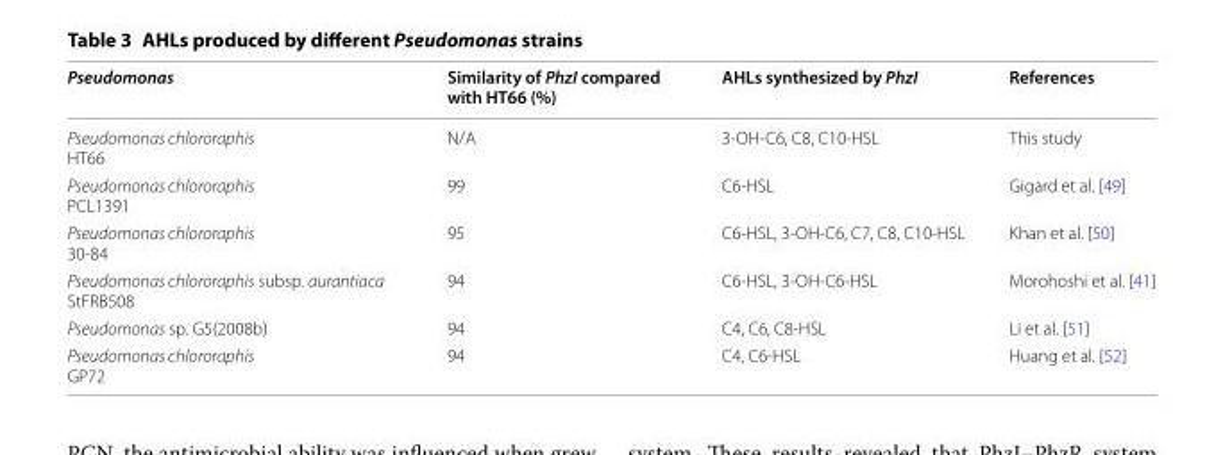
<table><thead><tr><td>Pseudomonas</td><td>Similarity of PhzI compared with HT66 (%)</td><td>AHLs synthesized by PhzI</td><td>References</td></tr></thead><tbody><tr><td>Pseudomonas chlororaphis HT66</td><td>N/A</td><td>3-OH-C6, C8, C10-HSL</td><td>This study</td></tr><tr><td>Pseudomonas chlororaphis PCL1391</td><td>99</td><td>C6-HSL</td><td>Gigard et al. [49]</td></tr><tr><td>Pseudomonas chlororaphis 30-84</td><td>95</td><td>C6-HSL, 3-OH-C6, C7, C8, C10-HSL</td><td>Khan et al. [50]</td></tr><tr><td>Pseudomonas chlororaphis subsp. aurantiaca StFRB508</td><td>94</td><td>C6-HSL, 3-OH-C6-HSL</td><td>Morohoshi et al. [41]</td></tr><tr><td>Pseudomonas sp. G5(2008b)</td><td>94</td><td>C4, C6, C8-HSL</td><td>Li et al. [51]</td></tr><tr><td>Pseudomonas chlororaphis GP72</td><td>94</td><td>C4, C6-HSL</td><td>Huang et al. [52]</td></tr></tbody></table>